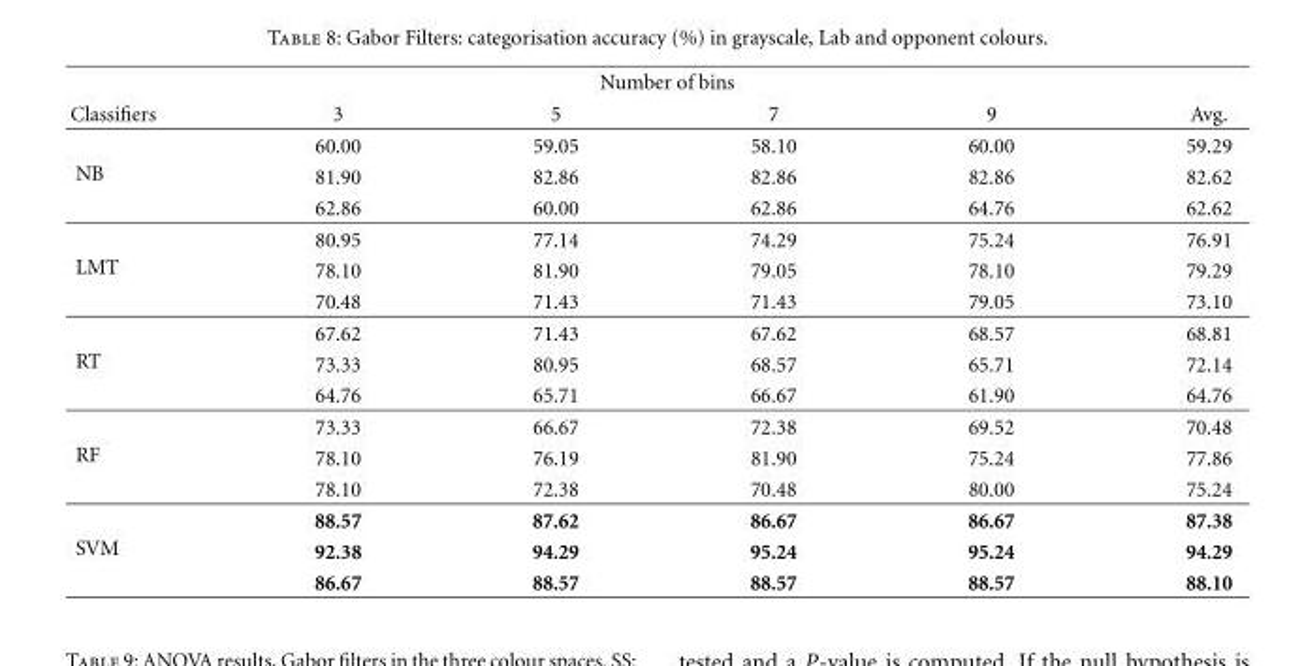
<table><thead><tr><td rowspan="2">Classifiers</td><td colspan="4">Number of bins</td><td rowspan="2">Avg.</td></tr><tr><td>3</td><td>5</td><td>7</td><td>9</td></tr></thead><tbody><tr><td rowspan="3">NB</td><td>60.00</td><td>59.05</td><td>58.10</td><td>60.00</td><td>59.29</td></tr><tr><td>81.90</td><td>82.86</td><td>82.86</td><td>82.86</td><td>82.62</td></tr><tr><td>62.86</td><td>60.00</td><td>62.86</td><td>64.76</td><td>62.62</td></tr><tr><td rowspan="3">LMT</td><td>80.95</td><td>77.14</td><td>74.29</td><td>75.24</td><td>76.91</td></tr><tr><td>78.10</td><td>81.90</td><td>79.05</td><td>78.10</td><td>79.29</td></tr><tr><td>70.48</td><td>71.43</td><td>71.43</td><td>79.05</td><td>73.10</td></tr><tr><td rowspan="3">RT</td><td>67.62</td><td>71.43</td><td>67.62</td><td>68.57</td><td>68.81</td></tr><tr><td>73.33</td><td>80.95</td><td>68.57</td><td>65.71</td><td>72.14</td></tr><tr><td>64.76</td><td>65.71</td><td>66.67</td><td>61.90</td><td>64.76</td></tr><tr><td rowspan="3">RF</td><td>73.33</td><td>66.67</td><td>72.38</td><td>69.52</td><td>70.48</td></tr><tr><td>78.10</td><td>76.19</td><td>81.90</td><td>75.24</td><td>77.86</td></tr><tr><td>78.10</td><td>72.38</td><td>70.48</td><td>80.00</td><td>75.24</td></tr><tr><td rowspan="3">SVM</td><td>88.57</td><td>87.62</td><td>86.67</td><td>86.67</td><td>87.38</td></tr><tr><td>92.38</td><td>94.29</td><td>95.24</td><td>95.24</td><td>94.29</td></tr><tr><td>86.67</td><td>88.57</td><td>88.57</td><td>88.57</td><td>88.10</td></tr></tbody></table>